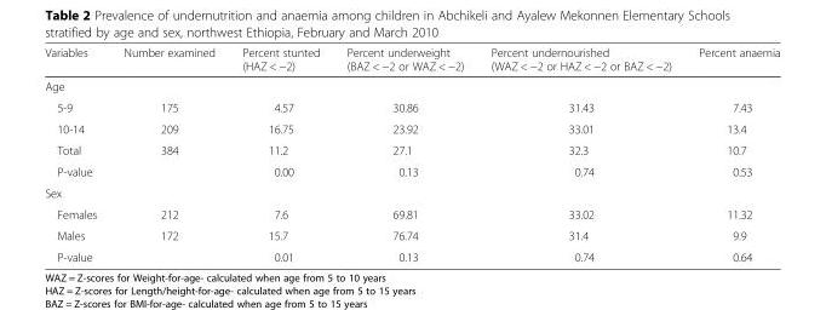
<table><thead><tr><td>Variables</td><td>Number examined</td><td>Percent stunted (HAZ &lt; −2)</td><td>Percent underweight (BAZ &lt; −2 or WAZ &lt; −2)</td><td>Percent undernourished (WAZ &lt; −2 or HAZ &lt; −2 or BAZ &lt; −2)</td><td>Percent anaemia</td></tr></thead><tbody><tr><td colspan="6">Age</td></tr><tr><td>5-9</td><td>175</td><td>4.57</td><td>30.86</td><td>31.43</td><td>7.43</td></tr><tr><td>10-14</td><td>209</td><td>16.75</td><td>23.92</td><td>33.01</td><td>13.4</td></tr><tr><td>Total</td><td>384</td><td>11.2</td><td>27.1</td><td>32.3</td><td>10.7</td></tr><tr><td>P-value</td><td></td><td>0.00</td><td>0.13</td><td>0.74</td><td>0.53</td></tr><tr><td colspan="6">Sex</td></tr><tr><td>Females</td><td>212</td><td>7.6</td><td>69.81</td><td>33.02</td><td>11.32</td></tr><tr><td>Males</td><td>172</td><td>15.7</td><td>76.74</td><td>31.4</td><td>9.9</td></tr><tr><td>P-value</td><td></td><td>0.01</td><td>0.13</td><td>0.74</td><td>0.64</td></tr></tbody></table>